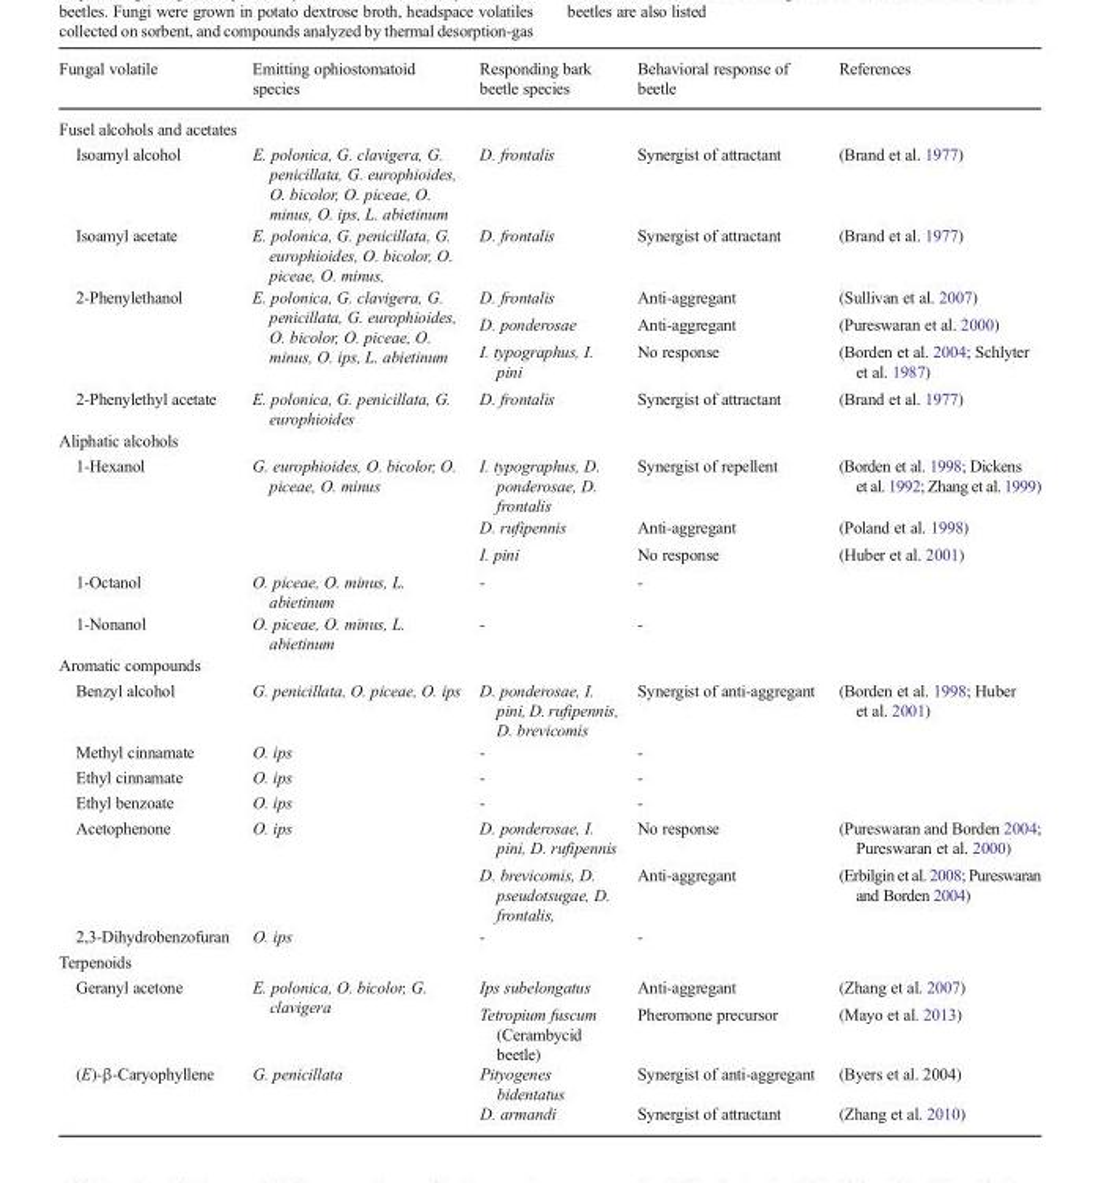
<table><thead><tr><td>Fungal volatile</td><td>Emitting ophiostomatoid species</td><td>Responding bark beetle species</td><td>Behavioral response of beetle</td><td>References</td></tr></thead><tbody><tr><td colspan="5">Fusel alcohols and acetates</td></tr><tr><td>Isoamyl alcohol</td><td>E. polonica, G. clavigera, G. penicillata, G. europhioides, O. bicolor, O. piceae, O. minus, O. ips, L. abietinum</td><td>D. frontalis</td><td>Synergist of attractant</td><td>(Brand et al. 1977)</td></tr><tr><td>Isoamyl acetate</td><td>E. polonica, G. penicillata, G. europhioides, O. bicolor, O. piceae, O. minus,</td><td>D. frontalis</td><td>Synergist of attractant</td><td>(Brand et al. 1977)</td></tr><tr><td rowspan="3">2-Phenylethanol</td><td rowspan="3">E. polonica, G. clavigera, G. penicillata, G. europhioides, O. bicolor, O. piceae, O. minus, O. ips, L. abietinum</td><td>D. frontalis</td><td>Anti-aggregant</td><td>(Sullivan et al. 2007)</td></tr><tr><td>D. ponderosae</td><td>Anti-aggregant</td><td>(Pureswaran et al. 2000)</td></tr><tr><td>I. typographus, I. pini</td><td>No response</td><td>(Borden et al. 2004; Schlyter et al. 1987)</td></tr><tr><td>2-Phenylethyl acetate</td><td>E. polonica, G. penicillata, G. europhioides</td><td>D. frontalis</td><td>Synergist of attractant</td><td>(Brand et al. 1977)</td></tr><tr><td colspan="5">Aliphatic alcohols</td></tr><tr><td rowspan="3">1-Hexanol</td><td rowspan="3">G. europhioides, O. bicolor, O. piceae, O. minus</td><td>I. typographus, D. ponderosae, D. frontalis</td><td>Synergist of repellent</td><td>(Borden et al. 1998; Dickens et al. 1992; Zhang et al. 1999)</td></tr><tr><td>D. rufipennis</td><td>Anti-aggregant</td><td>(Poland et al. 1998)</td></tr><tr><td>I. pini</td><td>No response</td><td>(Huber et al. 2001)</td></tr><tr><td>1-Octanol</td><td>O. piceae, O. minus, L. abietinum</td><td>-</td><td>-</td><td></td></tr><tr><td>1-Nonanol</td><td>O. piceae, O. minus, L. abietinum</td><td>-</td><td>-</td><td></td></tr><tr><td colspan="5">Aromatic compounds</td></tr><tr><td>Benzyl alcohol</td><td>G. penicillata, O. piceae, O. ips</td><td>D. ponderosae, I. pini, D. rufipennis, D. brevicomis</td><td>Synergist of anti-aggregant</td><td>(Borden et al. 1998; Huber et al. 2001)</td></tr><tr><td>Methyl cinnamate</td><td>O. ips</td><td>-</td><td>-</td><td></td></tr><tr><td>Ethyl cinnamate</td><td>O. ips</td><td>-</td><td>-</td><td></td></tr><tr><td>Ethyl benzoate</td><td>O. ips</td><td>-</td><td>-</td><td></td></tr><tr><td rowspan="2">Acetophenone</td><td rowspan="2">O. ips</td><td>D. ponderosae, I. pini, D. rufipennis</td><td>No response</td><td>(Pureswaran and Borden 2004; Pureswaran et al. 2000)</td></tr><tr><td>D. brevicomis, D. pseudotsugae, D. frontalis,</td><td>Anti-aggregant</td><td>(Erbilgin et al. 2008; Pureswaran and Borden 2004)</td></tr><tr><td>2,3-Dihydrobenzofuran</td><td>O. ips</td><td>-</td><td>-</td><td></td></tr><tr><td colspan="5">Terpenoids</td></tr><tr><td rowspan="2">Geranyl acetone</td><td rowspan="2">E. polonica, O. bicolor, G. clavigera</td><td>Ips subelongatus</td><td>Anti-aggregant</td><td>(Zhang et al. 2007)</td></tr><tr><td>Tetropium fuscum (Cerambycid beetle)</td><td>Pheromone precursor</td><td>(Mayo et al. 2013)</td></tr><tr><td rowspan="2">(E)-β-Caryophyllene</td><td rowspan="2">G. penicillata</td><td>Pityogenes bidentatus</td><td>Synergist of anti-aggregant</td><td>(Byers et al. 2004)</td></tr><tr><td>D. armandi</td><td>Synergist of attractant</td><td>(Zhang et al. 2010)</td></tr></tbody></table>